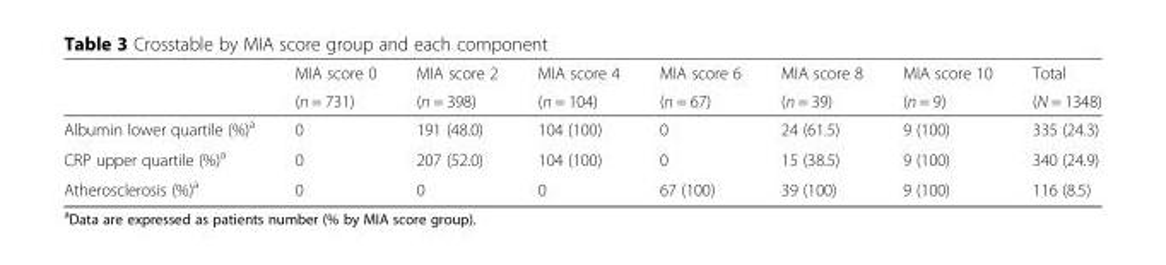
<table><thead><tr><td rowspan="2"></td><td rowspan="2">MIA score 0 (n = 731)</td><td rowspan="2">MIA score 2 (n = 398)</td><td rowspan="2">MIA score 4 (n = 104)</td><td rowspan="2">MIA score 6 (n = 67)</td><td rowspan="2">MIA score 8 (n = 39)</td><td rowspan="2">MIA score 10 (n = 9)</td><td rowspan="2">Total (N = 1348)</td></tr><tr></tr></thead><tbody><tr><td>Albumin lower quartile (%)<sup>a</sup></td><td>0</td><td>191 (48.0)</td><td>104 (100)</td><td>0</td><td>24 (61.5)</td><td>9 (100)</td><td>335 (24.3)</td></tr><tr><td>CRP upper quartile (%)<sup>a</sup></td><td>0</td><td>207 (52.0)</td><td>104 (100)</td><td>0</td><td>15 (38.5)</td><td>9 (100)</td><td>340 (24.9)</td></tr><tr><td>Atherosclerosis (%)<sup>a</sup></td><td>0</td><td>0</td><td>0</td><td>67 (100)</td><td>39 (100)</td><td>9 (100)</td><td>116 (8.5)</td></tr></tbody></table>